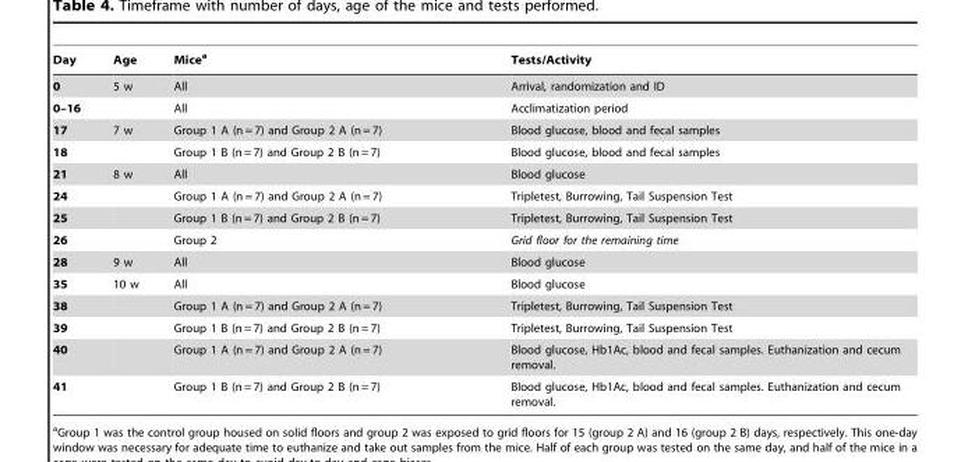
<table><thead><tr><td>Day</td><td>Age</td><td>Mice<sup>a</sup></td><td>Tests/Activity</td></tr></thead><tbody><tr><td>0</td><td>5 w</td><td>All</td><td>Arrival, randomization and ID</td></tr><tr><td>0–16</td><td></td><td>All</td><td>Acclimatization period</td></tr><tr><td>17</td><td>7 w</td><td>Group 1 A (n = 7) and Group 2 A (n = 7)</td><td>Blood glucose, blood and fecal samples</td></tr><tr><td>18</td><td></td><td>Group 1 B (n = 7) and Group 2 B (n = 7)</td><td>Blood glucose, blood and fecal samples</td></tr><tr><td>21</td><td>8 w</td><td>All</td><td>Blood glucose</td></tr><tr><td>24</td><td></td><td>Group 1 A (n = 7) and Group 2 A (n = 7)</td><td>Tripletest, Burrowing, Tail Suspension Test</td></tr><tr><td>25</td><td></td><td>Group 1 B (n = 7) and Group 2 B (n = 7)</td><td>Tripletest, Burrowing, Tail Suspension Test</td></tr><tr><td>26</td><td></td><td>Group 2</td><td>Grid floor for the remaining time</td></tr><tr><td>28</td><td>9 w</td><td>All</td><td>Blood glucose</td></tr><tr><td>35</td><td>10 w</td><td>All</td><td>Blood glucose</td></tr><tr><td>38</td><td></td><td>Group 1 A (n = 7) and Group 2 A (n = 7)</td><td>Tripletest, Burrowing, Tail Suspension Test</td></tr><tr><td>39</td><td></td><td>Group 1 B (n = 7) and Group 2 B (n = 7)</td><td>Tripletest, Burrowing, Tail Suspension Test</td></tr><tr><td>40</td><td></td><td>Group 1 A (n = 7) and Group 2 A (n = 7)</td><td>Blood glucose, Hb1Ac, blood and fecal samples. Euthanization and cecum removal.</td></tr><tr><td>41</td><td></td><td>Group 1 B (n = 7) and Group 2 B (n = 7)</td><td>Blood glucose, Hb1Ac, blood and fecal samples. Euthanization and cecum removal.</td></tr></tbody></table>